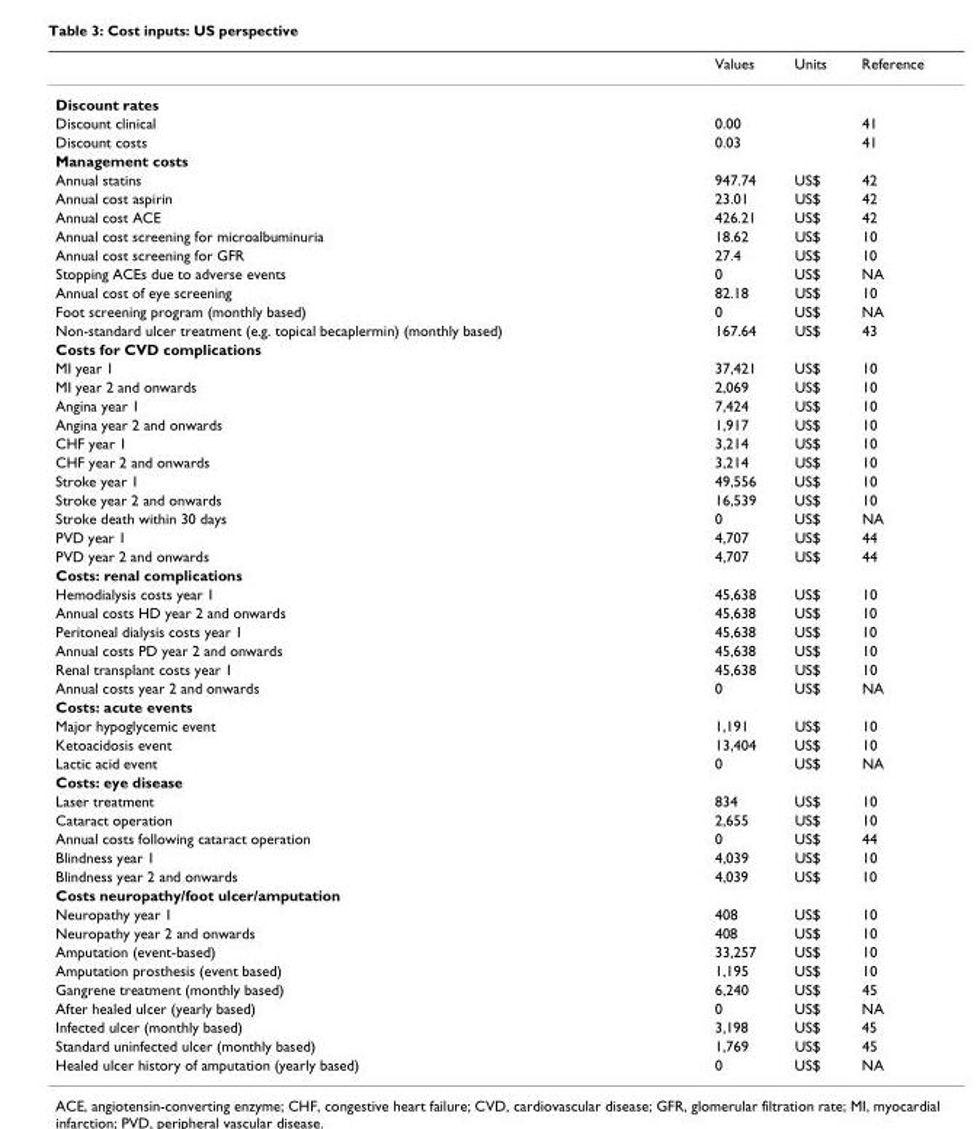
<table><thead><tr><td></td><td>Values</td><td>Units</td><td>Reference</td></tr></thead><tbody><tr><td colspan="4">Discount rates</td></tr><tr><td>Discount clinical</td><td>0.00</td><td></td><td>41</td></tr><tr><td>Discount costs</td><td>0.03</td><td></td><td>41</td></tr><tr><td colspan="4">Management costs</td></tr><tr><td>Annual statins</td><td>947.74</td><td>US$</td><td>42</td></tr><tr><td>Annual cost aspirin</td><td>23.01</td><td>US$</td><td>42</td></tr><tr><td>Annual cost ACE</td><td>426.21</td><td>US$</td><td>42</td></tr><tr><td>Annual cost screening for microalbuminuria</td><td>18.62</td><td>US$</td><td>10</td></tr><tr><td>Annual cost screening for GFR</td><td>27.4</td><td>US$</td><td>10</td></tr><tr><td>Stopping ACEs due to adverse events</td><td>0</td><td>US$</td><td>NA</td></tr><tr><td>Annual cost of eye screening</td><td>82.18</td><td>US$</td><td>10</td></tr><tr><td>Foot screening program (monthly based)</td><td>0</td><td>US$</td><td>NA</td></tr><tr><td>Non-standard ulcer treatment (e.g. topical becaplermin) (monthly based)</td><td>167.64</td><td>US$</td><td>43</td></tr><tr><td colspan="4">Costs for CVD complications</td></tr><tr><td>MI year 1</td><td>37,421</td><td>US$</td><td>10</td></tr><tr><td>MI year 2 and onwards</td><td>2,069</td><td>US$</td><td>10</td></tr><tr><td>Angina year 1</td><td>7,424</td><td>US$</td><td>10</td></tr><tr><td>Angina year 2 and onwards</td><td>1,917</td><td>US$</td><td>10</td></tr><tr><td>CHF year 1</td><td>3,214</td><td>US$</td><td>10</td></tr><tr><td>CHF year 2 and onwards</td><td>3,214</td><td>US$</td><td>10</td></tr><tr><td>Stroke year 1</td><td>49,556</td><td>US$</td><td>10</td></tr><tr><td>Stroke year 2 and onwards</td><td>16,539</td><td>US$</td><td>10</td></tr><tr><td>Stroke death within 30 days</td><td>0</td><td>US$</td><td>NA</td></tr><tr><td>PVD year 1</td><td>4,707</td><td>US$</td><td>44</td></tr><tr><td>PVD year 2 and onwards</td><td>4,707</td><td>US$</td><td>44</td></tr><tr><td colspan="4">Costs: renal complications</td></tr><tr><td>Hemodialysis costs year 1</td><td>45,638</td><td>US$</td><td>10</td></tr><tr><td>Annual costs HD year 2 and onwards</td><td>45,638</td><td>US$</td><td>10</td></tr><tr><td>Peritoneal dialysis costs year 1</td><td>45,638</td><td>US$</td><td>10</td></tr><tr><td>Annual costs PD year 2 and onwards</td><td>45,638</td><td>US$</td><td>10</td></tr><tr><td>Renal transplant costs year 1</td><td>45,638</td><td>US$</td><td>10</td></tr><tr><td>Annual costs year 2 and onwards</td><td>0</td><td>US$</td><td>NA</td></tr><tr><td colspan="4">Costs: acute events</td></tr><tr><td>Major hypoglycemic event</td><td>1,191</td><td>US$</td><td>10</td></tr><tr><td>Ketoacidosis event</td><td>13,404</td><td>US$</td><td>10</td></tr><tr><td>Lactic acid event</td><td>0</td><td>US$</td><td>NA</td></tr><tr><td colspan="4">Costs: eye disease</td></tr><tr><td>Laser treatment</td><td>834</td><td>US$</td><td>10</td></tr><tr><td>Cataract operation</td><td>2,655</td><td>US$</td><td>10</td></tr><tr><td>Annual costs following cataract operation</td><td>0</td><td>US$</td><td>44</td></tr><tr><td>Blindness year 1</td><td>4,039</td><td>US$</td><td>10</td></tr><tr><td>Blindness year 2 and onwards</td><td>4,039</td><td>US$</td><td>10</td></tr><tr><td colspan="4">Costs neuropathy/foot ulcer/amputation</td></tr><tr><td>Neuropathy year 1</td><td>408</td><td>US$</td><td>10</td></tr><tr><td>Neuropathy year 2 and onwards</td><td>408</td><td>US$</td><td>10</td></tr><tr><td>Amputation (event-based)</td><td>33,257</td><td>US$</td><td>10</td></tr><tr><td>Amputation prosthesis (event based)</td><td>1,195</td><td>US$</td><td>10</td></tr><tr><td>Gangrene treatment (monthly based)</td><td>6,240</td><td>US$</td><td>45</td></tr><tr><td>After healed ulcer (yearly based)</td><td>0</td><td>US$</td><td>NA</td></tr><tr><td>Infected ulcer (monthly based)</td><td>3,198</td><td>US$</td><td>45</td></tr><tr><td>Standard uninfected ulcer (monthly based)</td><td>1,769</td><td>US$</td><td>45</td></tr><tr><td>Healed ulcer history of amputation (yearly based)</td><td>0</td><td>US$</td><td>NA</td></tr></tbody></table>